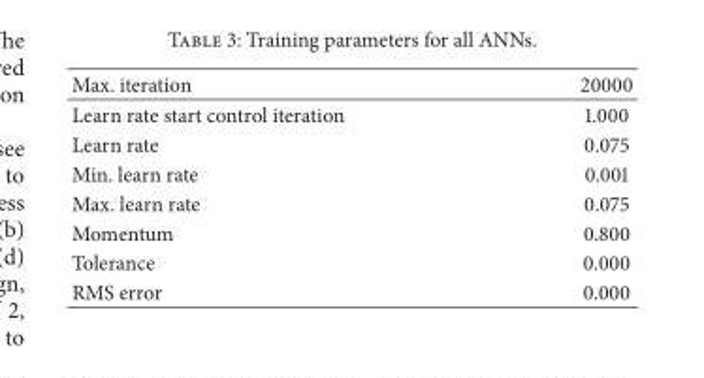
<table><thead><tr><td>Max. iteration</td><td>20000</td></tr></thead><tbody><tr><td>Learn rate start control iteration</td><td>1.000</td></tr><tr><td>Learn rate</td><td>0.075</td></tr><tr><td>Min. learn rate</td><td>0.001</td></tr><tr><td>Max. learn rate</td><td>0.075</td></tr><tr><td>Momentum</td><td>0.800</td></tr><tr><td>Tolerance</td><td>0.000</td></tr><tr><td>RMS error</td><td>0.000</td></tr></tbody></table>